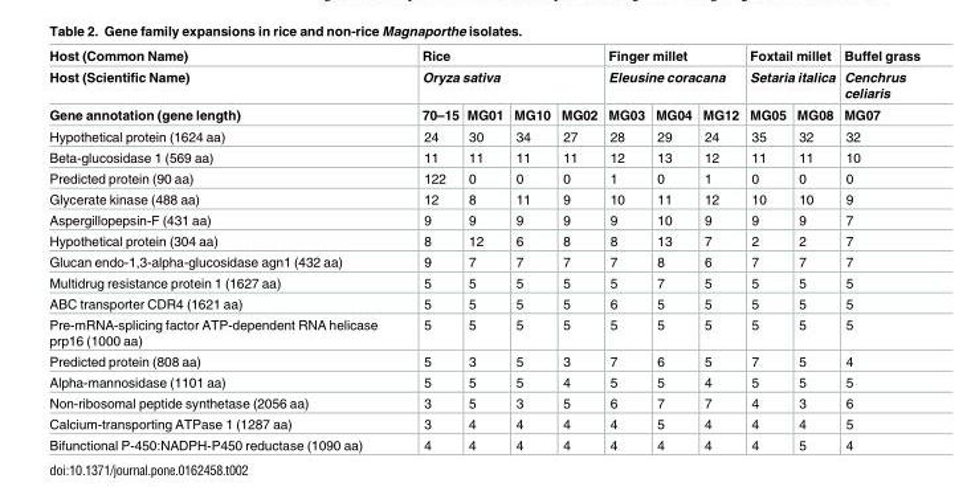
<table><thead><tr><td rowspan="3">Host (Common Name) Host (Scientific Name) Gene annotation (gene length)</td><td rowspan="2" colspan="4">Rice Oryza sativa</td><td rowspan="2" colspan="3">Finger millet Eleusine coracana</td><td rowspan="2" colspan="2">Foxtail millet Setaria italica</td><td rowspan="3">Buffel grass Cenchrus celiaris MG07</td></tr><tr></tr><tr><td>70–15</td><td>MG01</td><td>MG10</td><td>MG02</td><td>MG03</td><td>MG04</td><td>MG12</td><td>MG05</td><td>MG08</td></tr></thead><tbody><tr><td>Hypothetical protein (1624 aa)</td><td>24</td><td>30</td><td>34</td><td>27</td><td>28</td><td>29</td><td>24</td><td>35</td><td>32</td><td>32</td></tr><tr><td>Beta-glucosidase 1 (569 aa)</td><td>11</td><td>11</td><td>11</td><td>11</td><td>12</td><td>13</td><td>12</td><td>11</td><td>11</td><td>10</td></tr><tr><td>Predicted protein (90 aa)</td><td>122</td><td>0</td><td>0</td><td>0</td><td>1</td><td>0</td><td>1</td><td>0</td><td>0</td><td>0</td></tr><tr><td>Glycerate kinase (488 aa)</td><td>12</td><td>8</td><td>11</td><td>9</td><td>10</td><td>11</td><td>12</td><td>10</td><td>10</td><td>9</td></tr><tr><td>Aspergillopepsin-F (431 aa)</td><td>9</td><td>9</td><td>9</td><td>9</td><td>9</td><td>10</td><td>9</td><td>9</td><td>9</td><td>7</td></tr><tr><td>Hypothetical protein (304 aa)</td><td>8</td><td>12</td><td>6</td><td>8</td><td>8</td><td>13</td><td>7</td><td>2</td><td>2</td><td>7</td></tr><tr><td>Glucan endo-1,3-alpha-glucosidase agn1 (432 aa)</td><td>9</td><td>7</td><td>7</td><td>7</td><td>7</td><td>8</td><td>6</td><td>7</td><td>7</td><td>7</td></tr><tr><td>Multidrug resistance protein 1 (1627 aa)</td><td>5</td><td>5</td><td>5</td><td>5</td><td>5</td><td>7</td><td>5</td><td>5</td><td>5</td><td>5</td></tr><tr><td>ABC transporter CDR4 (1621 aa)</td><td>5</td><td>5</td><td>5</td><td>5</td><td>6</td><td>5</td><td>5</td><td>5</td><td>5</td><td>5</td></tr><tr><td>Pre-mRNA-splicing factor ATP-dependent RNA helicase prp16 (1000 aa)</td><td>5</td><td>5</td><td>5</td><td>5</td><td>5</td><td>5</td><td>5</td><td>5</td><td>5</td><td>5</td></tr><tr><td>Predicted protein (808 aa)</td><td>5</td><td>3</td><td>5</td><td>3</td><td>7</td><td>6</td><td>5</td><td>7</td><td>5</td><td>4</td></tr><tr><td>Alpha-mannosidase (1101 aa)</td><td>5</td><td>5</td><td>5</td><td>4</td><td>5</td><td>5</td><td>4</td><td>5</td><td>5</td><td>5</td></tr><tr><td>Non-ribosomal peptide synthetase (2056 aa)</td><td>3</td><td>5</td><td>3</td><td>5</td><td>6</td><td>7</td><td>7</td><td>4</td><td>3</td><td>6</td></tr><tr><td>Calcium-transporting ATPase 1 (1287 aa)</td><td>3</td><td>4</td><td>4</td><td>4</td><td>4</td><td>5</td><td>4</td><td>4</td><td>4</td><td>5</td></tr><tr><td>Bifunctional P-450:NADPH-P450 reductase (1090 aa)</td><td>4</td><td>4</td><td>4</td><td>4</td><td>4</td><td>4</td><td>4</td><td>4</td><td>5</td><td>4</td></tr></tbody></table>